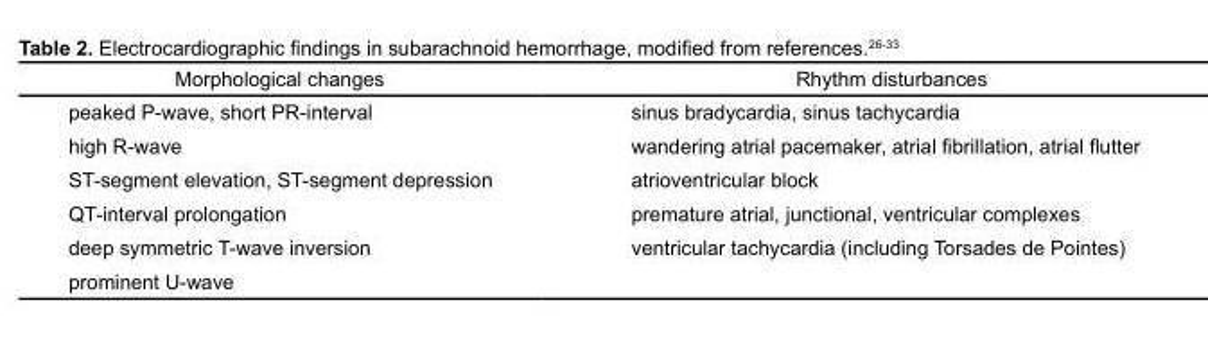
<table><thead><tr><td>Morphological changes</td><td>Rhythm disturbances</td></tr></thead><tbody><tr><td>peaked P-wave, short PR-interval</td><td>sinus bradycardia, sinus tachycardia</td></tr><tr><td>high R-wave</td><td>wandering atrial pacemaker, atrial fibrillation, atrial flutter</td></tr><tr><td>ST-segment elevation, ST-segment depression</td><td>atrioventricular block</td></tr><tr><td>QT-interval prolongation</td><td>premature atrial, junctional, ventricular complexes</td></tr><tr><td>deep symmetric T-wave inversion</td><td>ventricular tachycardia (including Torsades de Pointes)</td></tr><tr><td>prominent U-wave</td><td></td></tr></tbody></table>